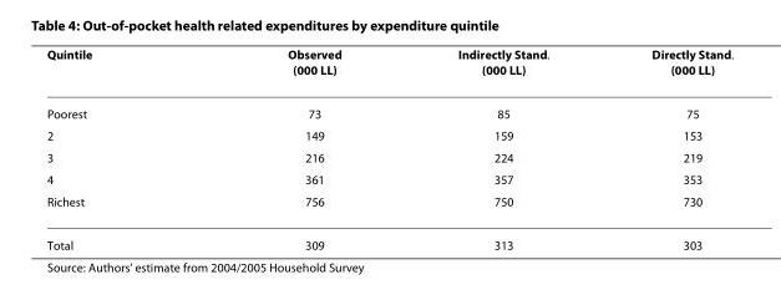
<table><thead><tr><td>Quintile</td><td>Observed (000 LL)</td><td>Indirectly Stand. (000 LL)</td><td>Directly Stand. (000 LL)</td></tr></thead><tbody><tr><td>Poorest</td><td>73</td><td>85</td><td>75</td></tr><tr><td>2</td><td>149</td><td>159</td><td>153</td></tr><tr><td>3</td><td>216</td><td>224</td><td>219</td></tr><tr><td>4</td><td>361</td><td>357</td><td>353</td></tr><tr><td>Richest</td><td>756</td><td>750</td><td>730</td></tr><tr><td>Total</td><td>309</td><td>313</td><td>303</td></tr></tbody></table>